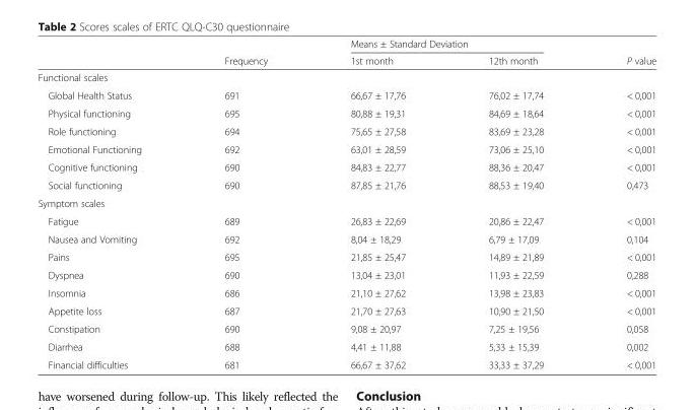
<table><thead><tr><td rowspan="2"></td><td rowspan="2">Frequency</td><td colspan="2">Means ± Standard Deviation</td><td rowspan="2">P value</td></tr><tr><td>1st month</td><td>12th month</td></tr></thead><tbody><tr><td colspan="5">Functional scales</td></tr><tr><td>Global Health Status</td><td>691</td><td>66,67 ± 17,76</td><td>76,02 ± 17,74</td><td>&lt; 0,001</td></tr><tr><td>Physical functioning</td><td>695</td><td>80,88 ± 19,31</td><td>84,69 ± 18,64</td><td>&lt; 0,001</td></tr><tr><td>Role functioning</td><td>694</td><td>75,65 ± 27,58</td><td>83,69 ± 23,28</td><td>&lt; 0,001</td></tr><tr><td>Emotional Functioning</td><td>692</td><td>63,01 ± 28,59</td><td>73,06 ± 25,10</td><td>&lt; 0,001</td></tr><tr><td>Cognitive functioning</td><td>690</td><td>84,83 ± 22,77</td><td>88,36 ± 20,47</td><td>&lt; 0,001</td></tr><tr><td>Social functioning</td><td>690</td><td>87,85 ± 21,76</td><td>88,53 ± 19,40</td><td>0,473</td></tr><tr><td colspan="5">Symptom scales</td></tr><tr><td>Fatigue</td><td>689</td><td>26,83 ± 22,69</td><td>20,86 ± 22,47</td><td>&lt; 0,001</td></tr><tr><td>Nausea and Vomiting</td><td>692</td><td>8,04 ± 18,29</td><td>6,79 ± 17,09</td><td>0,104</td></tr><tr><td>Pains</td><td>695</td><td>21,85 ± 25,47</td><td>14,89 ± 21,89</td><td>&lt; 0,001</td></tr><tr><td>Dyspnea</td><td>690</td><td>13,04 ± 23,01</td><td>11,93 ± 22,59</td><td>0,288</td></tr><tr><td>Insomnia</td><td>686</td><td>21,10 ± 27,62</td><td>13,98 ± 23,83</td><td>&lt; 0,001</td></tr><tr><td>Appetite loss</td><td>687</td><td>21,70 ± 27,63</td><td>10,90 ± 21,50</td><td>&lt; 0,001</td></tr><tr><td>Constipation</td><td>690</td><td>9,08 ± 20,97</td><td>7,25 ± 19,56</td><td>0,058</td></tr><tr><td>Diarrhea</td><td>688</td><td>4,41 ± 11,88</td><td>5,33 ± 15,39</td><td>0,002</td></tr><tr><td>Financial difficulties</td><td>681</td><td>66,67 ± 37,62</td><td>33,33 ± 37,29</td><td>&lt; 0,001</td></tr></tbody></table>